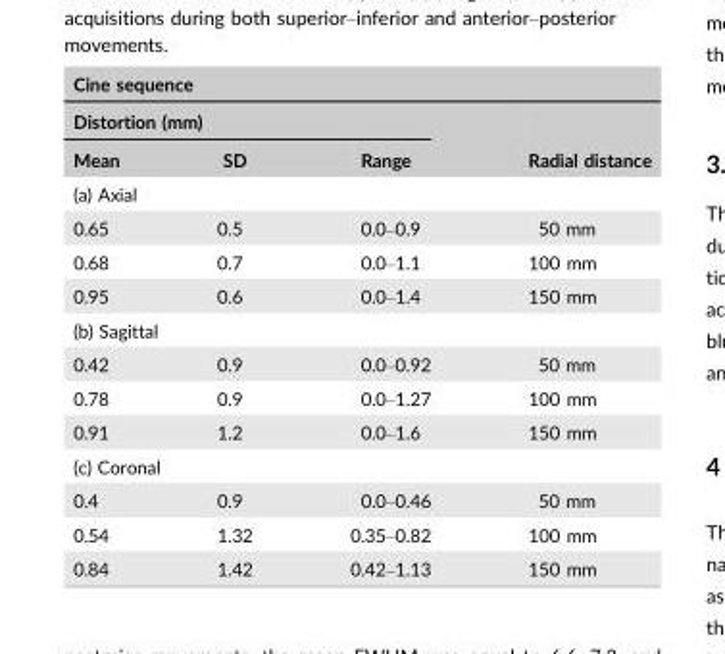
<table><thead><tr><td colspan="4">Cine sequence</td></tr><tr><td colspan="3">Distortion (mm)</td><td rowspan="2">Radial distance</td></tr><tr><td>Mean</td><td>SD</td><td>Range</td></tr></thead><tbody><tr><td colspan="4">(a) Axial</td></tr><tr><td>0.65</td><td>0.5</td><td>0.0–0.9</td><td>50 mm</td></tr><tr><td>0.68</td><td>0.7</td><td>0.0–1.1</td><td>100 mm</td></tr><tr><td>0.95</td><td>0.6</td><td>0.0–1.4</td><td>150 mm</td></tr><tr><td colspan="4">(b) Sagittal</td></tr><tr><td>0.42</td><td>0.9</td><td>0.0–0.92</td><td>50 mm</td></tr><tr><td>0.78</td><td>0.9</td><td>0.0–1.27</td><td>100 mm</td></tr><tr><td>0.91</td><td>1.2</td><td>0.0–1.6</td><td>150 mm</td></tr><tr><td colspan="4">(c) Coronal</td></tr><tr><td>0.4</td><td>0.9</td><td>0.0–0.46</td><td>50 mm</td></tr><tr><td>0.54</td><td>1.32</td><td>0.35–0.82</td><td>100 mm</td></tr><tr><td>0.84</td><td>1.42</td><td>0.42–1.13</td><td>150 mm</td></tr></tbody></table>